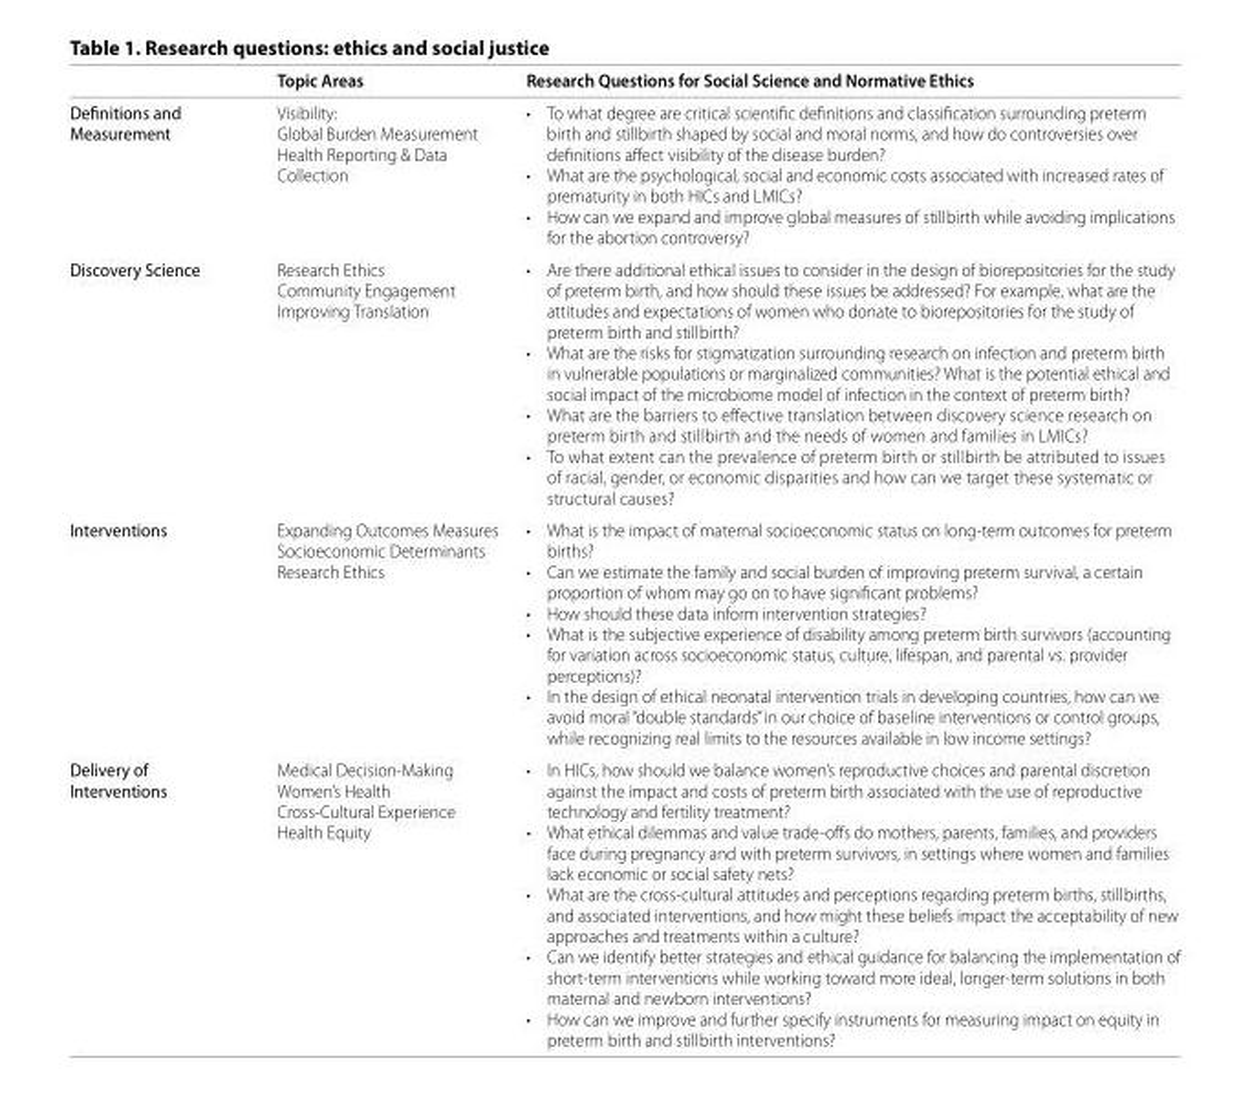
<table><thead><tr><td></td><td>Topic Areas</td><td>Research Questions for Social Science and Normative Ethics</td></tr></thead><tbody><tr><td>Defi nitions and Measurement</td><td>Visibility: Global Burden Measurement Health Reporting &amp; Data Collection</td><td>• To what degree are critical scientifi c defi nitions and classifi cation surrounding preterm birth and stillbirth shaped by social and moral norms, and how do controversies over defi nitions aff ect visibility of the disease burden? • What are the psychological, social and economic costs associated with increased rates of prematurity in both HICs and LMICs? • How can we expand and improve global measures of stillbirth while avoiding implications for the abortion controversy?</td></tr><tr><td>Discovery Science</td><td>Research Ethics Community Engagement Improving Translation</td><td>• Are there additional ethical issues to consider in the design of biorepositories for the study of preterm birth, and how should these issues be addressed? For example, what are the attitudes and expectations of women who donate to biorepositories for the study of preterm birth and stillbirth? • What are the risks for stigmatization surrounding research on infection and preterm birth in vulnerable populations or marginalized communities? What is the potential ethical and social impact of the microbiome model of infection in the context of preterm birth? • What are the barriers to eff ective translation between discovery science research on preterm birth and stillbirth and the needs of women and families in LMICs? • To what extent can the prevalence of preterm birth or stillbirth be attributed to issues of racial, gender, or economic disparities and how can we target these systematic or structural causes?</td></tr><tr><td>Interventions</td><td>Expanding Outcomes Measures Socioeconomic Determinants Research Ethics</td><td>• What is the impact of maternal socioeconomic status on long-term outcomes for preterm births? • Can we estimate the family and social burden of improving preterm survival, a certain proportion of whom may go on to have signifi cant problems? • How should these data inform intervention strategies? • What is the subjective experience of disability among preterm birth survivors (accounting for variation across socioeconomic status, culture, lifespan, and parental vs. provider perceptions)? • In the design of ethical neonatal intervention trials in developing countries, how can we avoid moral “double standards” in our choice of baseline interventions or control groups, while recognizing real limits to the resources available in low income settings?</td></tr><tr><td>Delivery of Interventions</td><td>Medical Decision-Making Women’s Health Cross-Cultural Experience Health Equity</td><td>• In HICs, how should we balance women’s reproductive choices and parental discretion against the impact and costs of preterm birth associated with the use of reproductive technology and fertility treatment? • What ethical dilemmas and value trade-off s do mothers, parents, families, and providers face during pregnancy and with preterm survivors, in settings where women and families lack economic or social safety nets? • What are the cross-cultural attitudes and perceptions regarding preterm births, stillbirths, and associated interventions, and how might these beliefs impact the acceptability of new approaches and treatments within a culture? • Can we identify better strategies and ethical guidance for balancing the implementation of short-term interventions while working toward more ideal, longer-term solutions in both maternal and newborn interventions? • How can we improve and further specify instruments for measuring impact on equity in preterm birth and stillbirth interventions?</td></tr></tbody></table>